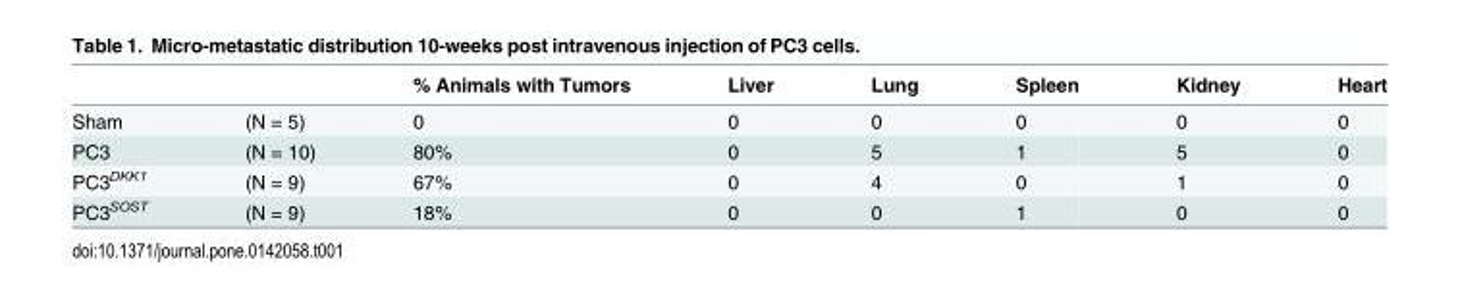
<table><thead><tr><td></td><td></td><td>% Animals with Tumors</td><td>Liver</td><td>Lung</td><td>Spleen</td><td>Kidney</td><td>Heart</td></tr></thead><tbody><tr><td>Sham</td><td>(N = 5)</td><td>0</td><td>0</td><td>0</td><td>0</td><td>0</td><td>0</td></tr><tr><td>PC3</td><td>(N = 10)</td><td>80%</td><td>0</td><td>5</td><td>1</td><td>5</td><td>0</td></tr><tr><td>PC3<sup>DKK1</sup></td><td>(N = 9)</td><td>67%</td><td>0</td><td>4</td><td>0</td><td>1</td><td>0</td></tr><tr><td>PC3<sup>SOST</sup></td><td>(N = 9)</td><td>18%</td><td>0</td><td>0</td><td>1</td><td>0</td><td>0</td></tr></tbody></table>